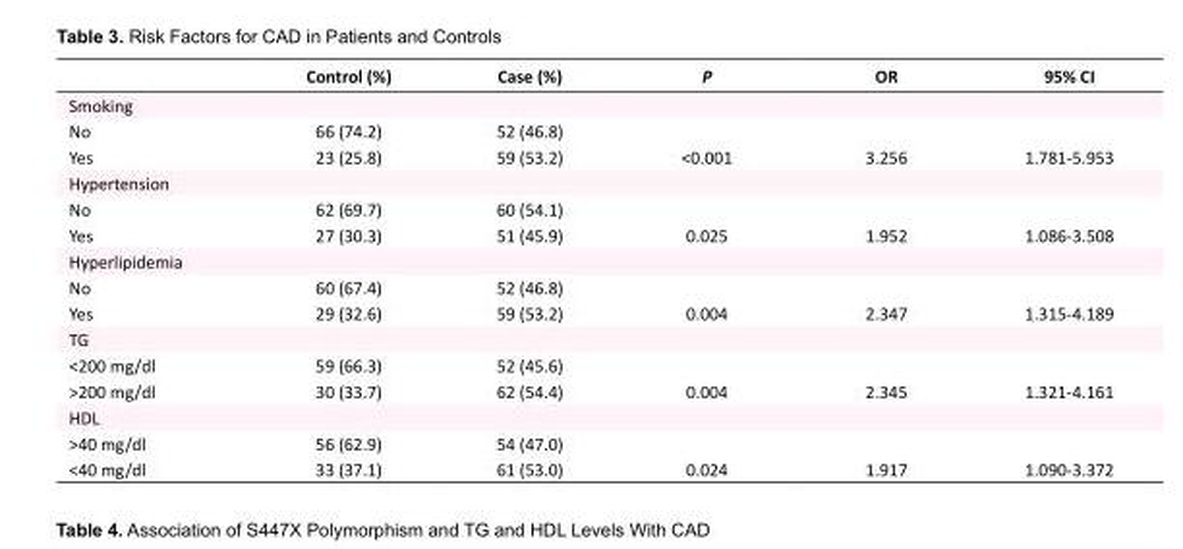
<table><thead><tr><td></td><td>Control (%)</td><td>Case (%)</td><td>P</td><td>OR</td><td>95% CI</td></tr></thead><tbody><tr><td colspan="6">Smoking</td></tr><tr><td>No</td><td>66 (74.2)</td><td>52 (46.8)</td><td></td><td></td><td></td></tr><tr><td>Yes</td><td>23 (25.8)</td><td>59 (53.2)</td><td>&lt;0.001</td><td>3.256</td><td>1.781-5.953</td></tr><tr><td colspan="6">Hypertension</td></tr><tr><td>No</td><td>62 (69.7)</td><td>60 (54.1)</td><td></td><td></td><td></td></tr><tr><td>Yes</td><td>27 (30.3)</td><td>51 (45.9)</td><td>0.025</td><td>1.952</td><td>1.086-3.508</td></tr><tr><td colspan="6">Hyperlipidemia</td></tr><tr><td>No</td><td>60 (67.4)</td><td>52 (46.8)</td><td></td><td></td><td></td></tr><tr><td>Yes</td><td>29 (32.6)</td><td>59 (53.2)</td><td>0.004</td><td>2.347</td><td>1.315-4.189</td></tr><tr><td colspan="6">TG</td></tr><tr><td>&lt;200 mg/dl</td><td>59 (66.3)</td><td>52 (45.6)</td><td></td><td></td><td></td></tr><tr><td>&gt;200 mg/dl</td><td>30 (33.7)</td><td>62 (54.4)</td><td>0.004</td><td>2.345</td><td>1.321-4.161</td></tr><tr><td colspan="6">HDL</td></tr><tr><td>&gt;40 mg/dl</td><td>56 (62.9)</td><td>54 (47.0)</td><td></td><td></td><td></td></tr><tr><td>&lt;40 mg/dl</td><td>33 (37.1)</td><td>61 (53.0)</td><td>0.024</td><td>1.917</td><td>1.090-3.372</td></tr></tbody></table>